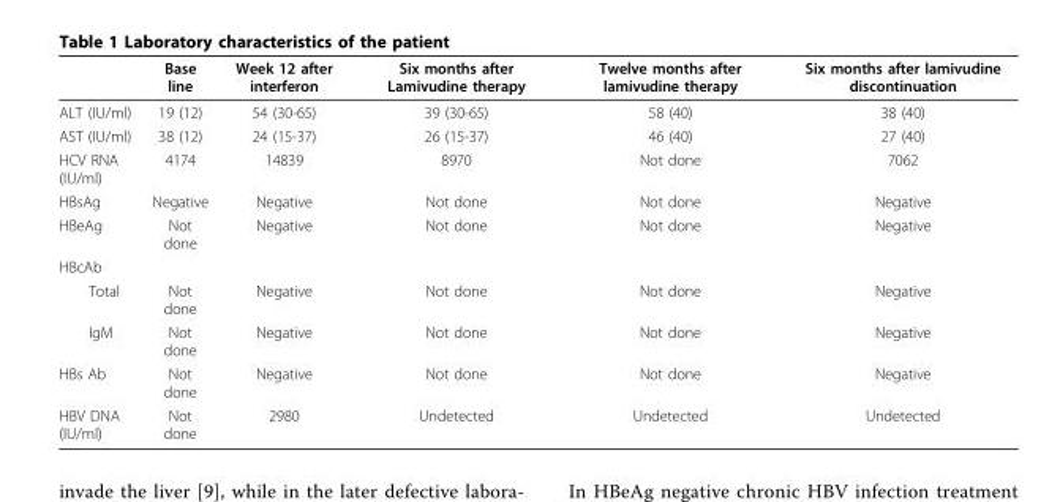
<table><thead><tr><td></td><td>Base line</td><td>Week 12 after interferon</td><td>Six months after Lamivudine therapy</td><td>Twelve months after lamivudine therapy</td><td>Six months after lamivudine discontinuation</td></tr></thead><tbody><tr><td>ALT (IU/ml)</td><td>19 (12)</td><td>54 (30-65)</td><td>39 (30-65)</td><td>58 (40)</td><td>38 (40)</td></tr><tr><td>AST (IU/ml)</td><td>38 (12)</td><td>24 (15-37)</td><td>26 (15-37)</td><td>46 (40)</td><td>27 (40)</td></tr><tr><td>HCV RNA (IU/ml)</td><td>4174</td><td>14839</td><td>8970</td><td>Not done</td><td>7062</td></tr><tr><td>HBsAg</td><td>Negative</td><td>Negative</td><td>Not done</td><td>Not done</td><td>Negative</td></tr><tr><td>HBeAg</td><td>Not done</td><td>Negative</td><td>Not done</td><td>Not done</td><td>Negative</td></tr><tr><td colspan="6">HBcAb</td></tr><tr><td>Total</td><td>Not done</td><td>Negative</td><td>Not done</td><td>Not done</td><td>Negative</td></tr><tr><td>IgM</td><td>Not done</td><td>Negative</td><td>Not done</td><td>Not done</td><td>Negative</td></tr><tr><td>HBs Ab</td><td>Not done</td><td>Negative</td><td>Not done</td><td>Not done</td><td>Negative</td></tr><tr><td>HBV DNA (IU/ml)</td><td>Not done</td><td>2980</td><td>Undetected</td><td>Undetected</td><td>Undetected</td></tr></tbody></table>